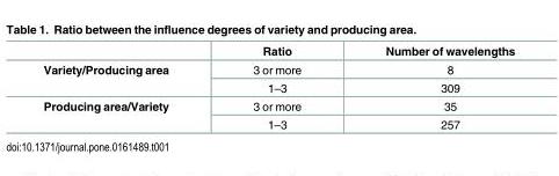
<table><thead><tr><td></td><td>Ratio</td><td>Number of wavelengths</td></tr></thead><tbody><tr><td rowspan="2">Variety/Producing area</td><td>3 or more</td><td>8</td></tr><tr><td>1–3</td><td>309</td></tr><tr><td rowspan="2">Producing area/Variety</td><td>3 or more</td><td>35</td></tr><tr><td>1–3</td><td>257</td></tr></tbody></table>